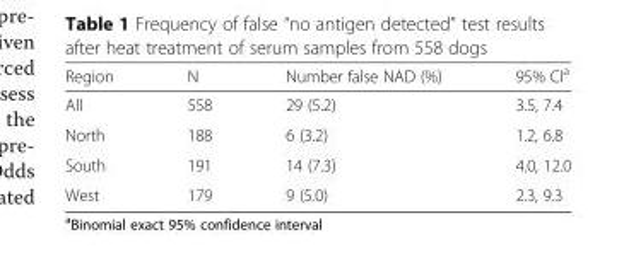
<table><thead><tr><td>Region</td><td>N</td><td>Number false NAD (%)</td><td>95% CI<sup>a</sup></td></tr></thead><tbody><tr><td>All</td><td>558</td><td>29 (5.2)</td><td>3.5, 7.4</td></tr><tr><td>North</td><td>188</td><td>6 (3.2)</td><td>1.2, 6.8</td></tr><tr><td>South</td><td>191</td><td>14 (7.3)</td><td>4.0, 12.0</td></tr><tr><td>West</td><td>179</td><td>9 (5.0)</td><td>2.3, 9.3</td></tr></tbody></table>